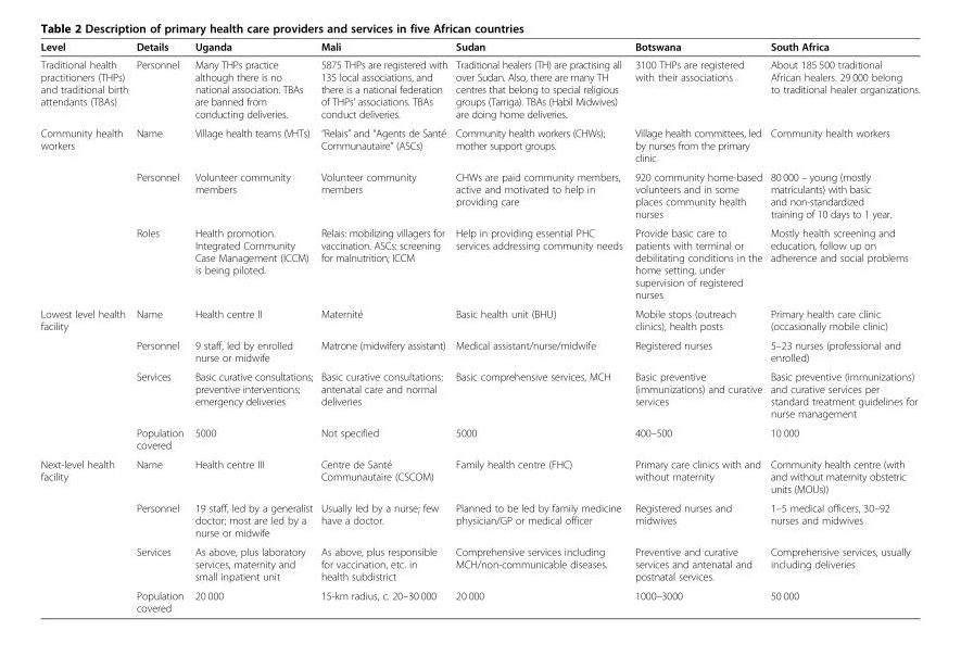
<table><thead><tr><td>Level</td><td>Details</td><td>Uganda</td><td>Mali</td><td>Sudan</td><td>Botswana</td><td>South Africa</td></tr></thead><tbody><tr><td>Traditional health practitioners (THPs) and traditional birth attendants (TBAs)</td><td>Personnel</td><td>Many THPs practice although there is no national association. TBAs are banned from conducting deliveries.</td><td>5875 THPs are registered with 135 local associations, and there is a national federation of THPs’ associations. TBAs conduct deliveries.</td><td>Traditional healers (TH) are practising all over Sudan. Also, there are many TH centres that belong to special religious groups (Tarriga). TBAs (Habil Midwives) are doing home deliveries.</td><td>3100 THPs are registered with their associations</td><td>About 185 500 traditional African healers. 29 000 belong to traditional healer organizations.</td></tr><tr><td rowspan="3">Community health workers</td><td>Name</td><td>Village health teams (VHTs)</td><td>“Relais” and “Agents de Santé Communautaire” (ASCs)</td><td>Community health workers (CHWs); mother support groups.</td><td>Village health committees, led by nurses from the primary clinic</td><td>Community health workers</td></tr><tr><td>Personnel</td><td>Volunteer community members</td><td>Volunteer community members</td><td>CHWs are paid community members, active and motivated to help in providing care</td><td>920 community home-based volunteers and in some places community health nurses</td><td>80 000 – young (mostly matriculants) with basic and non-standardized training of 10 days to 1 year.</td></tr><tr><td>Roles</td><td>Health promotion. Integrated Community Case Management (ICCM) is being piloted.</td><td>Relais: mobilizing villagers for vaccination. ASCs: screening for malnutrition; ICCM</td><td>Help in providing essential PHC services addressing community needs</td><td>Provide basic care to patients with terminal or debilitating conditions in the home setting, under supervision of registered nurses</td><td>Mostly health screening and education, follow up on adherence and social problems</td></tr><tr><td rowspan="4">Lowest level health facility</td><td>Name</td><td>Health centre II</td><td>Maternité</td><td>Basic health unit (BHU)</td><td>Mobile stops (outreach clinics), health posts</td><td>Primary health care clinic (occasionally mobile clinic)</td></tr><tr><td>Personnel</td><td>9 staff, led by enrolled nurse or midwife</td><td>Matrone (midwifery assistant)</td><td>Medical assistant/nurse/midwife</td><td>Registered nurses</td><td>5–23 nurses (professional and enrolled)</td></tr><tr><td>Services</td><td>Basic curative consultations; preventive interventions; emergency deliveries</td><td>Basic curative consultations; antenatal care and normal deliveries</td><td>Basic comprehensive services, MCH</td><td>Basic preventive (immunizations) and curative services</td><td>Basic preventive (immunizations) and curative services per standard treatment guidelines for nurse management</td></tr><tr><td>Population covered</td><td>5000</td><td>Not specified</td><td>5000</td><td>400–500</td><td>10 000</td></tr><tr><td rowspan="4">Next-level health facility</td><td>Name</td><td>Health centre III</td><td>Centre de Santé Communautaire (CSCOM)</td><td>Family health centre (FHC)</td><td>Primary care clinics with and without maternity</td><td>Community health centre (with and without maternity obstetric units (MOUs))</td></tr><tr><td>Personnel</td><td>19 staff, led by a generalist doctor; most are led by a nurse or midwife</td><td>Usually led by a nurse; few have a doctor.</td><td>Planned to be led by family medicine physician/GP or medical officer</td><td>Registered nurses and midwives</td><td>1–5 medical officers, 30–92 nurses and midwives</td></tr><tr><td>Services</td><td>As above, plus laboratory services, maternity and small inpatient unit</td><td>As above, plus responsible for vaccination, etc. in health subdistrict</td><td>Comprehensive services including MCH/non-communicable diseases.</td><td>Preventive and curative services and antenatal and postnatal services.</td><td>Comprehensive services, usually including deliveries</td></tr><tr><td>Population covered</td><td>20 000</td><td>15-km radius, c. 20–30 000</td><td>20 000</td><td>1000–3000</td><td>50 000</td></tr></tbody></table>